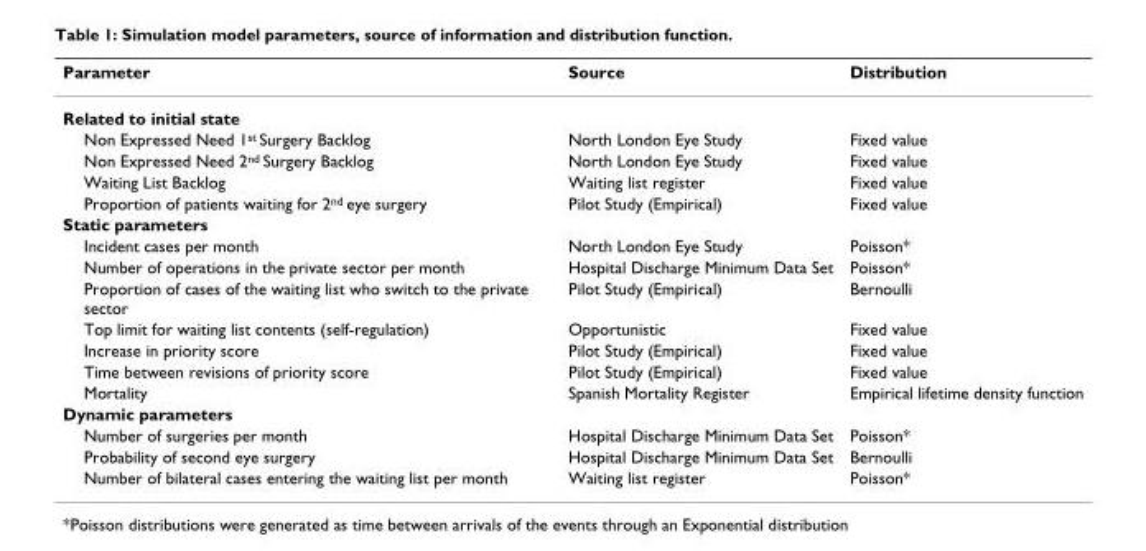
<table><thead><tr><td>Parameter</td><td>Source</td><td>Distribution</td></tr></thead><tbody><tr><td colspan="3">Related to initial state</td></tr><tr><td>Non Expressed Need 1<sup>st</sup> Surgery Backlog</td><td>North London Eye Study</td><td>Fixed value</td></tr><tr><td>Non Expressed Need 2<sup>nd</sup> Surgery Backlog</td><td>North London Eye Study</td><td>Fixed value</td></tr><tr><td>Waiting List Backlog</td><td>Waiting list register</td><td>Fixed value</td></tr><tr><td>Proportion of patients waiting for 2<sup>nd</sup> eye surgery</td><td>Pilot Study (Empirical)</td><td>Fixed value</td></tr><tr><td colspan="3">Static parameters</td></tr><tr><td>Incident cases per month</td><td>North London Eye Study</td><td>Poisson*</td></tr><tr><td>Number of operations in the private sector per month</td><td>Hospital Discharge Minimum Data Set</td><td>Poisson*</td></tr><tr><td>Proportion of cases of the waiting list who switch to the private sector</td><td>Pilot Study (Empirical)</td><td>Bernoulli</td></tr><tr><td>Top limit for waiting list contents (self-regulation)</td><td>Opportunistic</td><td>Fixed value</td></tr><tr><td>Increase in priority score</td><td>Pilot Study (Empirical)</td><td>Fixed value</td></tr><tr><td>Time between revisions of priority score</td><td>Pilot Study (Empirical)</td><td>Fixed value</td></tr><tr><td>Mortality</td><td>Spanish Mortality Register</td><td>Empirical lifetime density function</td></tr><tr><td colspan="3">Dynamic parameters</td></tr><tr><td>Number of surgeries per month</td><td>Hospital Discharge Minimum Data Set</td><td>Poisson*</td></tr><tr><td>Probability of second eye surgery</td><td>Hospital Discharge Minimum Data Set</td><td>Bernoulli</td></tr><tr><td>Number of bilateral cases entering the waiting list per month</td><td>Waiting list register</td><td>Poisson*</td></tr></tbody></table>